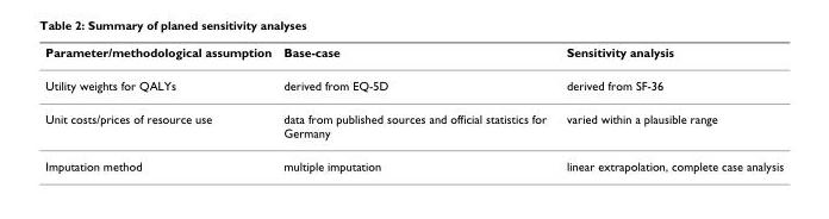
<table><thead><tr><td>Parameter/methodological assumption</td><td>Base-case</td><td>Sensitivity analysis</td></tr></thead><tbody><tr><td>Utility weights for QALYs</td><td>derived from EQ-5D</td><td>derived from SF-36</td></tr><tr><td>Unit costs/prices of resource use</td><td>data from published sources and official statistics for Germany</td><td>varied within a plausible range</td></tr><tr><td>Imputation method</td><td>multiple imputation</td><td>linear extrapolation, complete case analysis</td></tr></tbody></table>